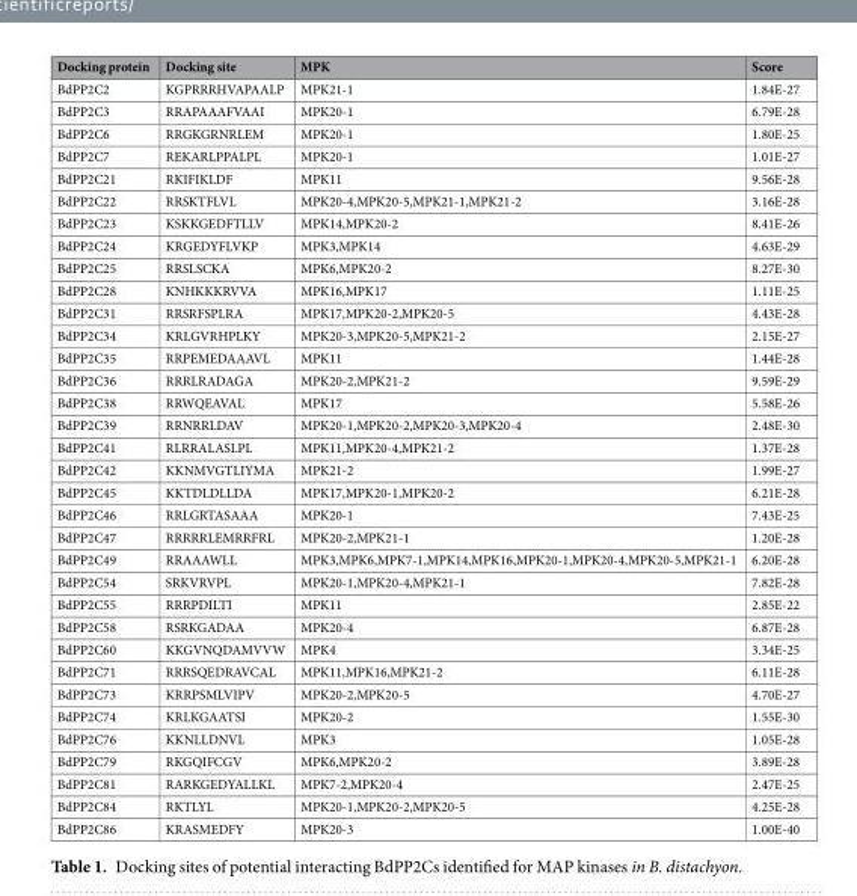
<table><thead><tr><td>Docking protein</td><td>Docking site</td><td>MPK</td><td>Score</td></tr></thead><tbody><tr><td>BdPP2C2</td><td>KGPRRRHVAPAALP</td><td>MPK21-1</td><td>1.84E-27</td></tr><tr><td>BdPP2C3</td><td>RRAPAAAFVAAI</td><td>MPK20-1</td><td>6.79E-28</td></tr><tr><td>BdPP2C6</td><td>RRGKGRNRLEM</td><td>MPK20-1</td><td>1.80E-25</td></tr><tr><td>BdPP2C7</td><td>REKARLPPALPL</td><td>MPK20-1</td><td>1.01E-27</td></tr><tr><td>BdPP2C21</td><td>RKIFIKLDF</td><td>MPK11</td><td>9.56E-28</td></tr><tr><td>BdPP2C22</td><td>RRSKTFLVL</td><td>MPK20-4,MPK20-5,MPK21-1,MPK21-2</td><td>3.16E-28</td></tr><tr><td>BdPP2C23</td><td>KSKKGEDFTLLV</td><td>MPK14,MPK20-2</td><td>8.41E-26</td></tr><tr><td>BdPP2C24</td><td>KRGEDYFLVKP</td><td>MPK3,MPK14</td><td>4.63E-29</td></tr><tr><td>BdPP2C25</td><td>RRSLSCKA</td><td>MPK6,MPK20-2</td><td>8.27E-30</td></tr><tr><td>BdPP2C28</td><td>KNHKKKRVVA</td><td>MPK16,MPK17</td><td>1.11E-25</td></tr><tr><td>BdPP2C31</td><td>RRSRFSPLRA</td><td>MPK17,MPK20-2,MPK20-5</td><td>4.43E-28</td></tr><tr><td>BdPP2C34</td><td>KRLGVRHPLKY</td><td>MPK20-3,MPK20-5,MPK21-2</td><td>2.15E-27</td></tr><tr><td>BdPP2C35</td><td>RRPEMEDAAAVL</td><td>MPK11</td><td>1.44E-28</td></tr><tr><td>BdPP2C36</td><td>RRRLRADAGA</td><td>MPK20-2,MPK21-2</td><td>9.59E-29</td></tr><tr><td>BdPP2C38</td><td>RRWQEAVAL</td><td>MPK17</td><td>5.58E-26</td></tr><tr><td>BdPP2C39</td><td>RRNRRLDAV</td><td>MPK20-1,MPK20-2,MPK20-3,MPK20-4</td><td>2.48E-30</td></tr><tr><td>BdPP2C41</td><td>RLRRALASLPL</td><td>MPK11,MPK20-4,MPK21-2</td><td>1.37E-28</td></tr><tr><td>BdPP2C42</td><td>KKNMVGTLIYMA</td><td>MPK21-2</td><td>1.99E-27</td></tr><tr><td>BdPP2C45</td><td>KKTDLDLLDA</td><td>MPK17,MPK20-1,MPK20-2</td><td>6.21E-28</td></tr><tr><td>BdPP2C46</td><td>RRLGRTASAAA</td><td>MPK20-1</td><td>7.43E-25</td></tr><tr><td>BdPP2C47</td><td>RRRRRLEMRRFRL</td><td>MPK20-2,MPK21-1</td><td>1.20E-28</td></tr><tr><td>BdPP2C49</td><td>RRAAAWLL</td><td>MPK3,MPK6,MPK7-1,MPK14,MPK16,MPK20-1,MPK20-4,MPK20-5,MPK21-1</td><td>6.20E-28</td></tr><tr><td>BdPP2C54</td><td>SRKVRVPL</td><td>MPK20-1,MPK20-4,MPK21-1</td><td>7.82E-28</td></tr><tr><td>BdPP2C55</td><td>RRRPDILTI</td><td>MPK11</td><td>2.85E-22</td></tr><tr><td>BdPP2C58</td><td>RSRKGADAA</td><td>MPK20-4</td><td>6.87E-28</td></tr><tr><td>BdPP2C60</td><td>KKGVNQDAMVVW</td><td>MPK4</td><td>3.34E-25</td></tr><tr><td>BdPP2C71</td><td>RRRSQEDRAVCAL</td><td>MPK11,MPK16,MPK21-2</td><td>6.11E-28</td></tr><tr><td>BdPP2C73</td><td>KRRPSMLVIPV</td><td>MPK20-2,MPK20-5</td><td>4.70E-27</td></tr><tr><td>BdPP2C74</td><td>KRLKGAATSI</td><td>MPK20-2</td><td>1.55E-30</td></tr><tr><td>BdPP2C76</td><td>KKNLLDNVL</td><td>MPK3</td><td>1.05E-28</td></tr><tr><td>BdPP2C79</td><td>RKGQIFCGV</td><td>MPK6,MPK20-2</td><td>3.89E-28</td></tr><tr><td>BdPP2C81</td><td>RARKGEDYALLKL</td><td>MPK7-2,MPK20-4</td><td>2.47E-25</td></tr><tr><td>BdPP2C84</td><td>RKTLYL</td><td>MPK20-1,MPK20-2,MPK20-5</td><td>4.25E-28</td></tr><tr><td>BdPP2C86</td><td>KRASMEDFY</td><td>MPK20-3</td><td>1.00E-40</td></tr></tbody></table>